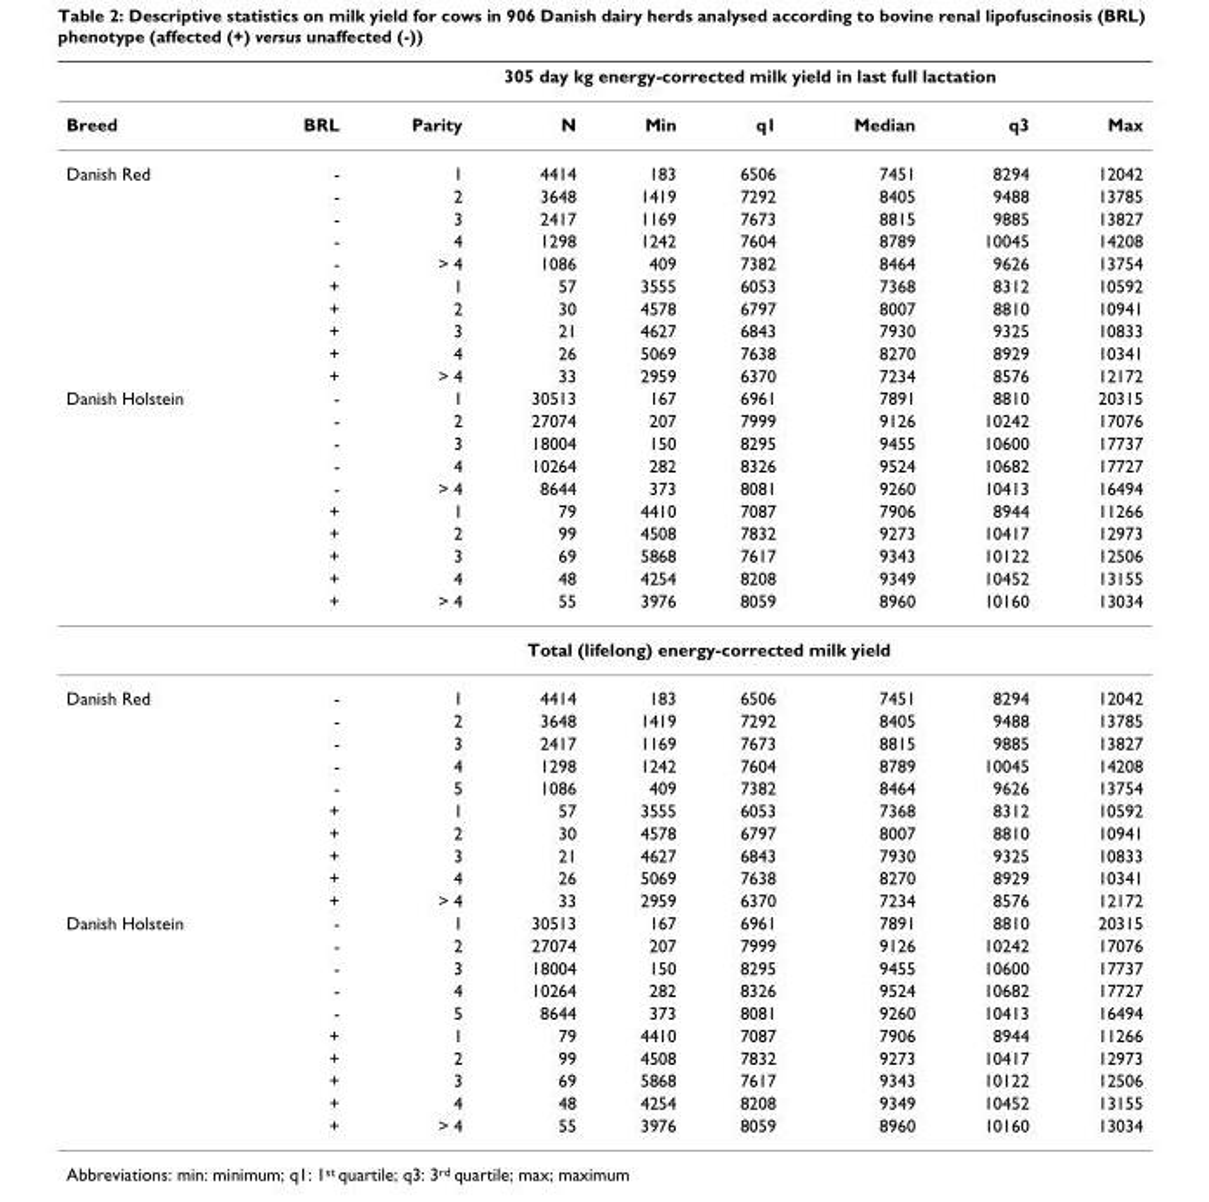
<table><thead><tr><td rowspan="2">Breed</td><td rowspan="2">BRL</td><td colspan="7">305 day kg energy-corrected milk yield in last full lactation</td></tr><tr><td>Parity</td><td>N</td><td>Min</td><td>q1</td><td>Median</td><td>q3</td><td>Max</td></tr></thead><tbody><tr><td rowspan="10">Danish Red</td><td>-</td><td>1</td><td>4414</td><td>183</td><td>6506</td><td>7451</td><td>8294</td><td>12042</td></tr><tr><td>-</td><td>2</td><td>3648</td><td>1419</td><td>7292</td><td>8405</td><td>9488</td><td>13785</td></tr><tr><td>-</td><td>3</td><td>2417</td><td>1169</td><td>7673</td><td>8815</td><td>9885</td><td>13827</td></tr><tr><td>-</td><td>4</td><td>1298</td><td>1242</td><td>7604</td><td>8789</td><td>10045</td><td>14208</td></tr><tr><td>-</td><td>&gt; 4</td><td>1086</td><td>409</td><td>7382</td><td>8464</td><td>9626</td><td>13754</td></tr><tr><td>+</td><td>1</td><td>57</td><td>3555</td><td>6053</td><td>7368</td><td>8312</td><td>10592</td></tr><tr><td>+</td><td>2</td><td>30</td><td>4578</td><td>6797</td><td>8007</td><td>8810</td><td>10941</td></tr><tr><td>+</td><td>3</td><td>21</td><td>4627</td><td>6843</td><td>7930</td><td>9325</td><td>10833</td></tr><tr><td>+</td><td>4</td><td>26</td><td>5069</td><td>7638</td><td>8270</td><td>8929</td><td>10341</td></tr><tr><td>+</td><td>&gt; 4</td><td>33</td><td>2959</td><td>6370</td><td>7234</td><td>8576</td><td>12172</td></tr><tr><td rowspan="11">Danish Holstein</td><td>-</td><td>1</td><td>30513</td><td>167</td><td>6961</td><td>7891</td><td>8810</td><td>20315</td></tr><tr><td>-</td><td>2</td><td>27074</td><td>207</td><td>7999</td><td>9126</td><td>10242</td><td>17076</td></tr><tr><td>-</td><td>3</td><td>18004</td><td>150</td><td>8295</td><td>9455</td><td>10600</td><td>17737</td></tr><tr><td>-</td><td>4</td><td>10264</td><td>282</td><td>8326</td><td>9524</td><td>10682</td><td>17727</td></tr><tr><td>-</td><td>&gt; 4</td><td>8644</td><td>373</td><td>8081</td><td>9260</td><td>10413</td><td>16494</td></tr><tr><td>+</td><td>1</td><td>79</td><td>4410</td><td>7087</td><td>7906</td><td>8944</td><td>11266</td></tr><tr><td>+</td><td>2</td><td>99</td><td>4508</td><td>7832</td><td>9273</td><td>10417</td><td>12973</td></tr><tr><td>+</td><td>3</td><td>69</td><td>5868</td><td>7617</td><td>9343</td><td>10122</td><td>12506</td></tr><tr><td>+</td><td>4</td><td>48</td><td>4254</td><td>8208</td><td>9349</td><td>10452</td><td>13155</td></tr><tr><td>+</td><td>&gt; 4</td><td>55</td><td>3976</td><td>8059</td><td>8960</td><td>10160</td><td>13034</td></tr><tr><td colspan="8">Total (lifelong) energy-corrected milk yield</td></tr><tr><td rowspan="10">Danish Red</td><td>-</td><td>1</td><td>4414</td><td>183</td><td>6506</td><td>7451</td><td>8294</td><td>12042</td></tr><tr><td>-</td><td>2</td><td>3648</td><td>1419</td><td>7292</td><td>8405</td><td>9488</td><td>13785</td></tr><tr><td>-</td><td>3</td><td>2417</td><td>1169</td><td>7673</td><td>8815</td><td>9885</td><td>13827</td></tr><tr><td>-</td><td>4</td><td>1298</td><td>1242</td><td>7604</td><td>8789</td><td>10045</td><td>14208</td></tr><tr><td>-</td><td>5</td><td>1086</td><td>409</td><td>7382</td><td>8464</td><td>9626</td><td>13754</td></tr><tr><td>+</td><td>1</td><td>57</td><td>3555</td><td>6053</td><td>7368</td><td>8312</td><td>10592</td></tr><tr><td>+</td><td>2</td><td>30</td><td>4578</td><td>6797</td><td>8007</td><td>8810</td><td>10941</td></tr><tr><td>+</td><td>3</td><td>21</td><td>4627</td><td>6843</td><td>7930</td><td>9325</td><td>10833</td></tr><tr><td>+</td><td>4</td><td>26</td><td>5069</td><td>7638</td><td>8270</td><td>8929</td><td>10341</td></tr><tr><td>+</td><td>&gt; 4</td><td>33</td><td>2959</td><td>6370</td><td>7234</td><td>8576</td><td>12172</td></tr><tr><td rowspan="10">Danish Holstein</td><td>-</td><td>1</td><td>30513</td><td>167</td><td>6961</td><td>7891</td><td>8810</td><td>20315</td></tr><tr><td>-</td><td>2</td><td>27074</td><td>207</td><td>7999</td><td>9126</td><td>10242</td><td>17076</td></tr><tr><td>-</td><td>3</td><td>18004</td><td>150</td><td>8295</td><td>9455</td><td>10600</td><td>17737</td></tr><tr><td>-</td><td>4</td><td>10264</td><td>282</td><td>8326</td><td>9524</td><td>10682</td><td>17727</td></tr><tr><td>-</td><td>5</td><td>8644</td><td>373</td><td>8081</td><td>9260</td><td>10413</td><td>16494</td></tr><tr><td>+</td><td>1</td><td>79</td><td>4410</td><td>7087</td><td>7906</td><td>8944</td><td>11266</td></tr><tr><td>+</td><td>2</td><td>99</td><td>4508</td><td>7832</td><td>9273</td><td>10417</td><td>12973</td></tr><tr><td>+</td><td>3</td><td>69</td><td>5868</td><td>7617</td><td>9343</td><td>10122</td><td>12506</td></tr><tr><td>+</td><td>4</td><td>48</td><td>4254</td><td>8208</td><td>9349</td><td>10452</td><td>13155</td></tr><tr><td>+</td><td>&gt; 4</td><td>55</td><td>3976</td><td>8059</td><td>8960</td><td>10160</td><td>13034</td></tr></tbody></table>